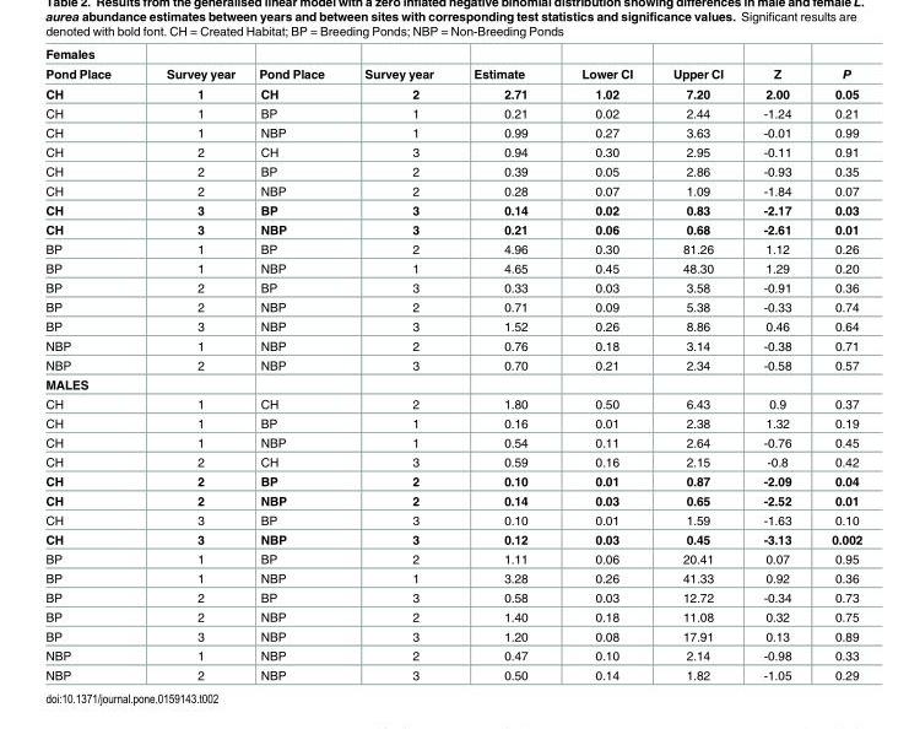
<table><thead><tr><td rowspan="2">Females Pond Place</td><td rowspan="2">Survey year</td><td rowspan="2">Pond Place</td><td rowspan="2">Survey year</td><td rowspan="2">Estimate</td><td rowspan="2">Lower CI</td><td rowspan="2">Upper CI</td><td rowspan="2">Z</td><td rowspan="2">P</td></tr><tr></tr></thead><tbody><tr><td>CH</td><td>1</td><td>CH</td><td>2</td><td>2.71</td><td>1.02</td><td>7.20</td><td>2.00</td><td>0.05</td></tr><tr><td>CH</td><td>1</td><td>BP</td><td>1</td><td>0.21</td><td>0.02</td><td>2.44</td><td>-1.24</td><td>0.21</td></tr><tr><td>CH</td><td>1</td><td>NBP</td><td>1</td><td>0.99</td><td>0.27</td><td>3.63</td><td>-0.01</td><td>0.99</td></tr><tr><td>CH</td><td>2</td><td>CH</td><td>3</td><td>0.94</td><td>0.30</td><td>2.95</td><td>-0.11</td><td>0.91</td></tr><tr><td>CH</td><td>2</td><td>BP</td><td>2</td><td>0.39</td><td>0.05</td><td>2.86</td><td>-0.93</td><td>0.35</td></tr><tr><td>CH</td><td>2</td><td>NBP</td><td>2</td><td>0.28</td><td>0.07</td><td>1.09</td><td>-1.84</td><td>0.07</td></tr><tr><td>CH</td><td>3</td><td>BP</td><td>3</td><td>0.14</td><td>0.02</td><td>0.83</td><td>-2.17</td><td>0.03</td></tr><tr><td>CH</td><td>3</td><td>NBP</td><td>3</td><td>0.21</td><td>0.06</td><td>0.68</td><td>-2.61</td><td>0.01</td></tr><tr><td>BP</td><td>1</td><td>BP</td><td>2</td><td>4.96</td><td>0.30</td><td>81.26</td><td>1.12</td><td>0.26</td></tr><tr><td>BP</td><td>1</td><td>NBP</td><td>1</td><td>4.65</td><td>0.45</td><td>48.30</td><td>1.29</td><td>0.20</td></tr><tr><td>BP</td><td>2</td><td>BP</td><td>3</td><td>0.33</td><td>0.03</td><td>3.58</td><td>-0.91</td><td>0.36</td></tr><tr><td>BP</td><td>2</td><td>NBP</td><td>2</td><td>0.71</td><td>0.09</td><td>5.38</td><td>-0.33</td><td>0.74</td></tr><tr><td>BP</td><td>3</td><td>NBP</td><td>3</td><td>1.52</td><td>0.26</td><td>8.86</td><td>0.46</td><td>0.64</td></tr><tr><td>NBP</td><td>1</td><td>NBP</td><td>2</td><td>0.76</td><td>0.18</td><td>3.14</td><td>-0.38</td><td>0.71</td></tr><tr><td>NBP</td><td>2</td><td>NBP</td><td>3</td><td>0.70</td><td>0.21</td><td>2.34</td><td>-0.58</td><td>0.57</td></tr><tr><td colspan="9">MALES</td></tr><tr><td>CH</td><td>1</td><td>CH</td><td>2</td><td>1.80</td><td>0.50</td><td>6.43</td><td>0.9</td><td>0.37</td></tr><tr><td>CH</td><td>1</td><td>BP</td><td>1</td><td>0.16</td><td>0.01</td><td>2.38</td><td>1.32</td><td>0.19</td></tr><tr><td>CH</td><td>1</td><td>NBP</td><td>1</td><td>0.54</td><td>0.11</td><td>2.64</td><td>-0.76</td><td>0.45</td></tr><tr><td>CH</td><td>2</td><td>CH</td><td>3</td><td>0.59</td><td>0.16</td><td>2.15</td><td>-0.8</td><td>0.42</td></tr><tr><td>CH</td><td>2</td><td>BP</td><td>2</td><td>0.10</td><td>0.01</td><td>0.87</td><td>-2.09</td><td>0.04</td></tr><tr><td>CH</td><td>2</td><td>NBP</td><td>2</td><td>0.14</td><td>0.03</td><td>0.65</td><td>-2.52</td><td>0.01</td></tr><tr><td>CH</td><td>3</td><td>BP</td><td>3</td><td>0.10</td><td>0.01</td><td>1.59</td><td>-1.63</td><td>0.10</td></tr><tr><td>CH</td><td>3</td><td>NBP</td><td>3</td><td>0.12</td><td>0.03</td><td>0.45</td><td>-3.13</td><td>0.002</td></tr><tr><td>BP</td><td>1</td><td>BP</td><td>2</td><td>1.11</td><td>0.06</td><td>20.41</td><td>0.07</td><td>0.95</td></tr><tr><td>BP</td><td>1</td><td>NBP</td><td>1</td><td>3.28</td><td>0.26</td><td>41.33</td><td>0.92</td><td>0.36</td></tr><tr><td>BP</td><td>2</td><td>BP</td><td>3</td><td>0.58</td><td>0.03</td><td>12.72</td><td>-0.34</td><td>0.73</td></tr><tr><td>BP</td><td>2</td><td>NBP</td><td>2</td><td>1.40</td><td>0.18</td><td>11.08</td><td>0.32</td><td>0.75</td></tr><tr><td>BP</td><td>3</td><td>NBP</td><td>3</td><td>1.20</td><td>0.08</td><td>17.91</td><td>0.13</td><td>0.89</td></tr><tr><td>NBP</td><td>1</td><td>NBP</td><td>2</td><td>0.47</td><td>0.10</td><td>2.14</td><td>-0.98</td><td>0.33</td></tr><tr><td>NBP</td><td>2</td><td>NBP</td><td>3</td><td>0.50</td><td>0.14</td><td>1.82</td><td>-1.05</td><td>0.29</td></tr></tbody></table>